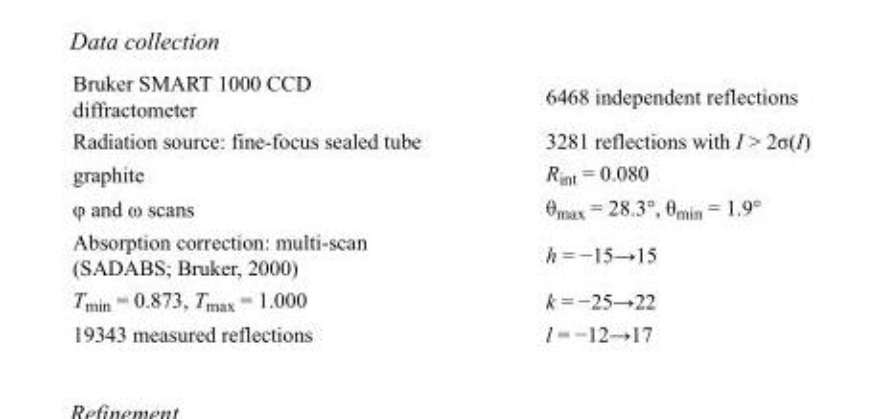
<table><tbody><tr><td>Bruker SMART 1000 CCD diffractometer</td><td>6468 independent reflections</td></tr><tr><td>Radiation source: fine-focus sealed tube</td><td>3281 reflections with I &gt; 2σ(I)</td></tr><tr><td>graphite</td><td>R<sub>int</sub> = 0.080</td></tr><tr><td>φ and ω scans</td><td>θ<sub>max</sub> = 28.3°, θ<sub>min</sub> = 1.9°</td></tr><tr><td>Absorption correction: multi-scan (SADABS; Bruker, 2000)</td><td>h = −15→15</td></tr><tr><td>T<sub>min</sub> = 0.873, T<sub>max</sub> = 1.000</td><td>k = −25→22</td></tr><tr><td>19343 measured reflections</td><td>l = −12→17</td></tr></tbody></table>